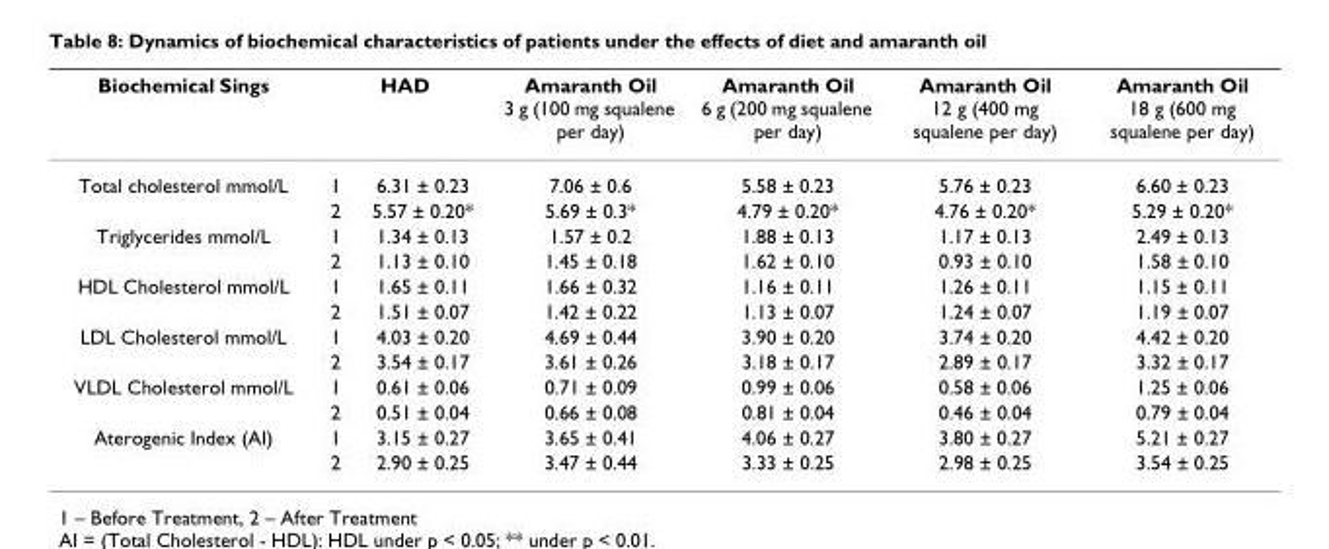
<table><thead><tr><td rowspan="2">Biochemical Sings Total cholesterol mmol/L</td><td colspan="2">HAD</td><td rowspan="2">Amaranth Oil 3 g (100 mg squalene per day) 7.06 ± 0.6</td><td rowspan="2">Amaranth Oil 6 g (200 mg squalene per day) 5.58 ± 0.23</td><td rowspan="2">Amaranth Oil 12 g (400 mg squalene per day) 5.76 ± 0.23</td><td rowspan="2">Amaranth Oil 18 g (600 mg squalene per day) 6.60 ± 0.23</td></tr><tr><td>1</td><td>6.31 ± 0.23</td></tr></thead><tbody><tr><td></td><td>2</td><td>5.57 ± 0.20*</td><td>5.69 ± 0.3*</td><td>4.79 ± 0.20*</td><td>4.76 ± 0.20*</td><td>5.29 ± 0.20*</td></tr><tr><td rowspan="2">Triglycerides mmol/L</td><td>1</td><td>1.34 ± 0.13</td><td>1.57 ± 0.2</td><td>1.88 ± 0.13</td><td>1.17 ± 0.13</td><td>2.49 ± 0.13</td></tr><tr><td>2</td><td>1.13 ± 0.10</td><td>1.45 ± 0.18</td><td>1.62 ± 0.10</td><td>0.93 ± 0.10</td><td>1.58 ± 0.10</td></tr><tr><td rowspan="2">HDL Cholesterol mmol/L</td><td>1</td><td>1.65 ± 0.11</td><td>1.66 ± 0.32</td><td>1.16 ± 0.11</td><td>1.26 ± 0.11</td><td>1.15 ± 0.11</td></tr><tr><td>2</td><td>1.51 ± 0.07</td><td>1.42 ± 0.22</td><td>1.13 ± 0.07</td><td>1.24 ± 0.07</td><td>1.19 ± 0.07</td></tr><tr><td rowspan="2">LDL Cholesterol mmol/L</td><td>1</td><td>4.03 ± 0.20</td><td>4.69 ± 0.44</td><td>3.90 ± 0.20</td><td>3.74 ± 0.20</td><td>4.42 ± 0.20</td></tr><tr><td>2</td><td>3.54 ± 0.17</td><td>3.61 ± 0.26</td><td>3.18 ± 0.17</td><td>2.89 ± 0.17</td><td>3.32 ± 0.17</td></tr><tr><td rowspan="2">VLDL Cholesterol mmol/L</td><td>1</td><td>0.61 ± 0.06</td><td>0.71 ± 0.09</td><td>0.99 ± 0.06</td><td>0.58 ± 0.06</td><td>1.25 ± 0.06</td></tr><tr><td>2</td><td>0.51 ± 0.04</td><td>0.66 ± 0.08</td><td>0.81 ± 0.04</td><td>0.46 ± 0.04</td><td>0.79 ± 0.04</td></tr><tr><td rowspan="2">Aterogenic Index (AI)</td><td>1</td><td>3.15 ± 0.27</td><td>3.65 ± 0.41</td><td>4.06 ± 0.27</td><td>3.80 ± 0.27</td><td>5.21 ± 0.27</td></tr><tr><td>2</td><td>2.90 ± 0.25</td><td>3.47 ± 0.44</td><td>3.33 ± 0.25</td><td>2.98 ± 0.25</td><td>3.54 ± 0.25</td></tr></tbody></table>